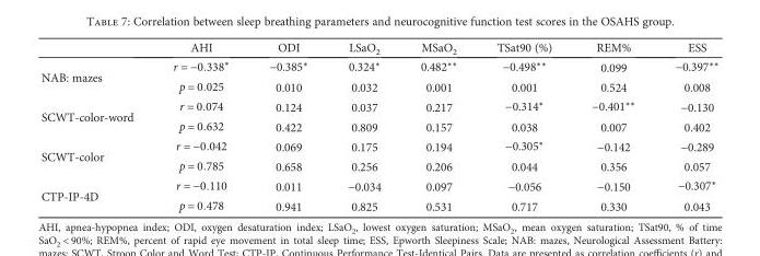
<table><thead><tr><td></td><td>AHI</td><td>ODI</td><td>LSaO<sub>2</sub></td><td>MSaO<sub>2</sub></td><td>TSat90 (%)</td><td>REM%</td><td>ESS</td></tr></thead><tbody><tr><td rowspan="2">NAB: mazes</td><td>r = −0 338∗</td><td>−0.385∗</td><td>0.324∗</td><td>0.482∗∗</td><td>−0.498∗∗</td><td>0.099</td><td>−0.397∗∗</td></tr><tr><td>p = 0 025</td><td>0.010</td><td>0.032</td><td>0.001</td><td>0.001</td><td>0.524</td><td>0.008</td></tr><tr><td rowspan="2">SCWT-color-word</td><td>r = 0 074</td><td>0.124</td><td>0.037</td><td>0.217</td><td>−0.314∗</td><td>−0.401∗∗</td><td>−0.130</td></tr><tr><td>p = 0 632</td><td>0.422</td><td>0.809</td><td>0.157</td><td>0.038</td><td>0.007</td><td>0.402</td></tr><tr><td rowspan="2">SCWT-color</td><td>r = −0 042</td><td>0.069</td><td>0.175</td><td>0.194</td><td>−0.305∗</td><td>−0.142</td><td>−0.289</td></tr><tr><td>p = 0 785</td><td>0.658</td><td>0.256</td><td>0.206</td><td>0.044</td><td>0.356</td><td>0.057</td></tr><tr><td rowspan="2">CTP-IP-4D</td><td>r = −0 110</td><td>0.011</td><td>−0.034</td><td>0.097</td><td>−0.056</td><td>−0.150</td><td>−0.307∗</td></tr><tr><td>p = 0 478</td><td>0.941</td><td>0.825</td><td>0.531</td><td>0.717</td><td>0.330</td><td>0.043</td></tr></tbody></table>